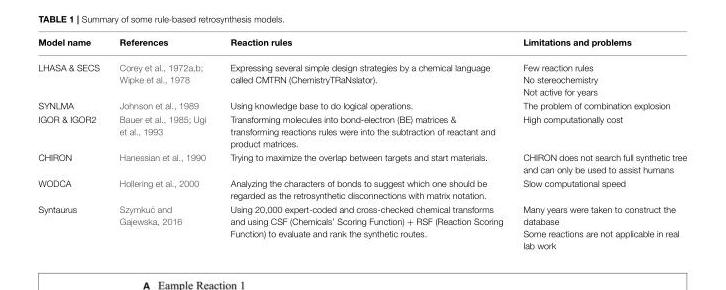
<table><thead><tr><td>Model name</td><td>References</td><td>Reaction rules</td><td>Limitations and problems</td></tr></thead><tbody><tr><td>LHASA &amp; SECS</td><td>Corey et al., 1972a,b; Wipke et al., 1978</td><td>Expressing several simple design strategies by a chemical language called CMTRN (ChemistryTRaNslator).</td><td>Few reaction rules No stereochemistry Not active for years</td></tr><tr><td>SYNLMA</td><td>Johnson et al., 1989</td><td>Using knowledge base to do logical operations.</td><td>The problem of combination explosion</td></tr><tr><td>IGOR &amp; IGOR2</td><td>Bauer et al., 1985; Ugi et al., 1993</td><td>Transforming molecules into bond-electron (BE) matrices &amp; transforming reactions rules were into the subtraction of reactant and product matrices.</td><td>High computationally cost</td></tr><tr><td>CHIRON</td><td>Hanessian et al., 1990</td><td>Trying to maximize the overlap between targets and start materials.</td><td>CHIRON does not search full synthetic tree and can only be used to assist humans</td></tr><tr><td>WODCA</td><td>Hollering et al., 2000</td><td>Analyzing the characters of bonds to suggest which one should be regarded as the retrosynthetic disconnections with matrix notation.</td><td>Slow computational speed</td></tr><tr><td>Syntaurus</td><td>Szymku ´c and Gajewska, 2016</td><td>Using 20,000 expert-coded and cross-checked chemical transforms and using CSF (Chemicals’ Scoring Function) + RSF (Reaction Scoring Function) to evaluate and rank the synthetic routes.</td><td>Many years were taken to construct the database Some reactions are not applicable in real lab work</td></tr></tbody></table>